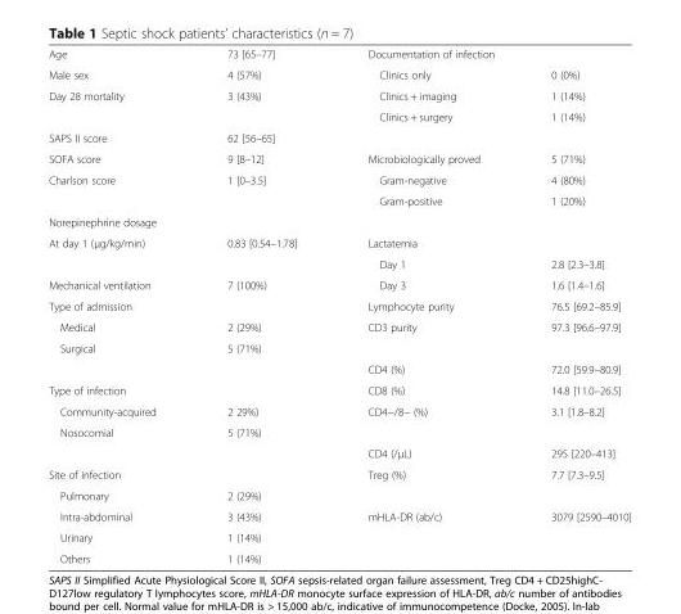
<table><tbody><tr><td>Age</td><td>73 [65–77]</td><td colspan="2">Documentation of infection</td></tr><tr><td>Male sex</td><td>4 (57%)</td><td>Clinics only</td><td>0 (0%)</td></tr><tr><td rowspan="2">Day 28 mortality</td><td>3 (43%)</td><td>Clinics + imaging</td><td>1 (14%)</td></tr><tr><td></td><td>Clinics + surgery</td><td>1 (14%)</td></tr><tr><td>SAPS II score</td><td>62 [56–65]</td><td></td><td></td></tr><tr><td>SOFA score</td><td>9 [8–12]</td><td>Microbiologically proved</td><td>5 (71%)</td></tr><tr><td rowspan="2">Charlson score</td><td>1 [0–3.5]</td><td>Gram-negative</td><td>4 (80%)</td></tr><tr><td></td><td>Gram-positive</td><td>1 (20%)</td></tr><tr><td colspan="4">Norepinephrine dosage</td></tr><tr><td rowspan="2">At day 1 (μg/kg/min)</td><td>0.83 [0.54–1.78]</td><td colspan="2">Lactatemia</td></tr><tr><td></td><td>Day 1</td><td>2.8 [2.3–3.8]</td></tr><tr><td>Mechanical ventilation</td><td>7 (100%)</td><td>Day 3</td><td>1.6 [1.4–1.6]</td></tr><tr><td colspan="2">Type of admission</td><td>Lymphocyte purity</td><td>76.5 [69.2–85.9]</td></tr><tr><td>Medical</td><td>2 (29%)</td><td>CD3 purity</td><td>97.3 [96.6–97.9]</td></tr><tr><td rowspan="2">Surgical</td><td>5 (71%)</td><td></td><td></td></tr><tr><td></td><td>CD4 (%)</td><td>72.0 [59.9–80.9]</td></tr><tr><td colspan="2">Type of infection</td><td>CD8 (%)</td><td>14.8 [11.0–26.5]</td></tr><tr><td>Community-acquired</td><td>2 29%)</td><td>CD4−/8− (%)</td><td>3.1 [1.8–8.2]</td></tr><tr><td rowspan="2">Nosocomial</td><td>5 (71%)</td><td></td><td></td></tr><tr><td></td><td>CD4 (/μL)</td><td>295 [220–413]</td></tr><tr><td colspan="2">Site of infection</td><td>Treg (%)</td><td>7.7 [7.3–9.5]</td></tr><tr><td>Pulmonary</td><td>2 (29%)</td><td></td><td></td></tr><tr><td>Intra-abdominal</td><td>3 (43%)</td><td>mHLA-DR (ab/c)</td><td>3079 [2590–4010]</td></tr><tr><td>Urinary</td><td>1 (14%)</td><td></td><td></td></tr><tr><td>Others</td><td>1 (14%)</td><td></td><td></td></tr></tbody></table>